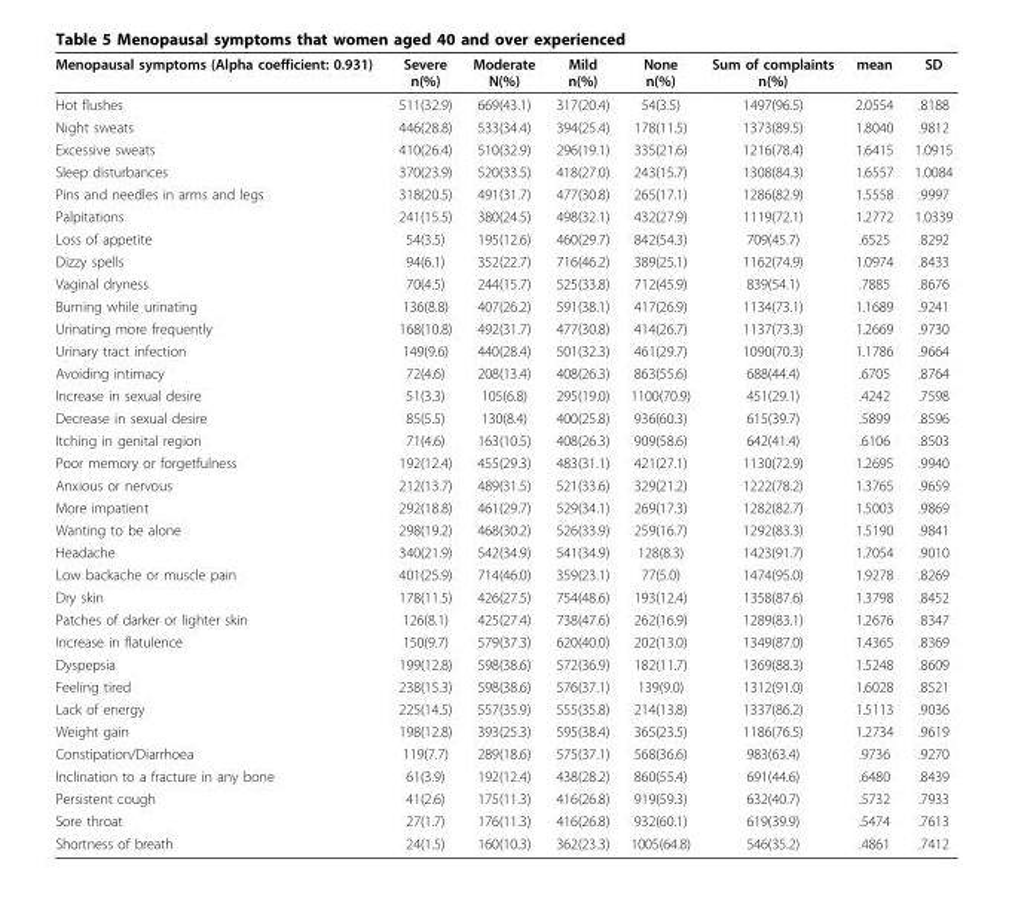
<table><thead><tr><td>Menopausal symptoms (Alpha coefficient: 0.931)</td><td>Severe n(%)</td><td>Moderate N(%)</td><td>Mild n(%)</td><td>None n(%)</td><td>Sum of complaints n(%)</td><td>mean</td><td>SD</td></tr></thead><tbody><tr><td>Hot flushes</td><td>511(32.9)</td><td>669(43.1)</td><td>317(20.4)</td><td>54(3.5)</td><td>1497(96.5)</td><td>2.0554</td><td>.8188</td></tr><tr><td>Night sweats</td><td>446(28.8)</td><td>533(34.4)</td><td>394(25.4)</td><td>178(11.5)</td><td>1373(89.5)</td><td>1.8040</td><td>.9812</td></tr><tr><td>Excessive sweats</td><td>410(26.4)</td><td>510(32.9)</td><td>296(19.1)</td><td>335(21.6)</td><td>1216(78.4)</td><td>1.6415</td><td>1.0915</td></tr><tr><td>Sleep disturbances</td><td>370(23.9)</td><td>520(33.5)</td><td>418(27.0)</td><td>243(15.7)</td><td>1308(84.3)</td><td>1.6557</td><td>1.0084</td></tr><tr><td>Pins and needles in arms and legs</td><td>318(20.5)</td><td>491(31.7)</td><td>477(30.8)</td><td>265(17.1)</td><td>1286(82.9)</td><td>1.5558</td><td>.9997</td></tr><tr><td>Palpitations</td><td>241(15.5)</td><td>380(24.5)</td><td>498(32.1)</td><td>432(27.9)</td><td>1119(72.1)</td><td>1.2772</td><td>1.0339</td></tr><tr><td>Loss of appetite</td><td>54(3.5)</td><td>195(12.6)</td><td>460(29.7)</td><td>842(54.3)</td><td>709(45.7)</td><td>.6525</td><td>.8292</td></tr><tr><td>Dizzy spells</td><td>94(6.1)</td><td>352(22.7)</td><td>716(46.2)</td><td>389(25.1)</td><td>1162(74.9)</td><td>1.0974</td><td>.8433</td></tr><tr><td>Vaginal dryness</td><td>70(4.5)</td><td>244(15.7)</td><td>525(33.8)</td><td>712(45.9)</td><td>839(54.1)</td><td>.7885</td><td>.8676</td></tr><tr><td>Burning while urinating</td><td>136(8.8)</td><td>407(26.2)</td><td>591(38.1)</td><td>417(26.9)</td><td>1134(73.1)</td><td>1.1689</td><td>.9241</td></tr><tr><td>Urinating more frequently</td><td>168(10.8)</td><td>492(31.7)</td><td>477(30.8)</td><td>414(26.7)</td><td>1137(73.3)</td><td>1.2669</td><td>.9730</td></tr><tr><td>Urinary tract infection</td><td>149(9.6)</td><td>440(28.4)</td><td>501(32.3)</td><td>461(29.7)</td><td>1090(70.3)</td><td>1.1786</td><td>.9664</td></tr><tr><td>Avoiding intimacy</td><td>72(4.6)</td><td>208(13.4)</td><td>408(26.3)</td><td>863(55.6)</td><td>688(44.4)</td><td>.6705</td><td>.8764</td></tr><tr><td>Increase in sexual desire</td><td>51(3.3)</td><td>105(6.8)</td><td>295(19.0)</td><td>1100(70.9)</td><td>451(29.1)</td><td>.4242</td><td>.7598</td></tr><tr><td>Decrease in sexual desire</td><td>85(5.5)</td><td>130(8.4)</td><td>400(25.8)</td><td>936(60.3)</td><td>615(39.7)</td><td>.5899</td><td>.8596</td></tr><tr><td>Itching in genital region</td><td>71(4.6)</td><td>163(10.5)</td><td>408(26.3)</td><td>909(58.6)</td><td>642(41.4)</td><td>.6106</td><td>.8503</td></tr><tr><td>Poor memory or forgetfulness</td><td>192(12.4)</td><td>455(29.3)</td><td>483(31.1)</td><td>421(27.1)</td><td>1130(72.9)</td><td>1.2695</td><td>.9940</td></tr><tr><td>Anxious or nervous</td><td>212(13.7)</td><td>489(31.5)</td><td>521(33.6)</td><td>329(21.2)</td><td>1222(78.2)</td><td>1.3765</td><td>.9659</td></tr><tr><td>More impatient</td><td>292(18.8)</td><td>461(29.7)</td><td>529(34.1)</td><td>269(17.3)</td><td>1282(82.7)</td><td>1.5003</td><td>.9869</td></tr><tr><td>Wanting to be alone</td><td>298(19.2)</td><td>468(30.2)</td><td>526(33.9)</td><td>259(16.7)</td><td>1292(83.3)</td><td>1.5190</td><td>.9841</td></tr><tr><td>Headache</td><td>340(21.9)</td><td>542(34.9)</td><td>541(34.9)</td><td>128(8.3)</td><td>1423(91.7)</td><td>1.7054</td><td>.9010</td></tr><tr><td>Low backache or muscle pain</td><td>401(25.9)</td><td>714(46.0)</td><td>359(23.1)</td><td>77(5.0)</td><td>1474(95.0)</td><td>1.9278</td><td>.8269</td></tr><tr><td>Dry skin</td><td>178(11.5)</td><td>426(27.5)</td><td>754(48.6)</td><td>193(12.4)</td><td>1358(87.6)</td><td>1.3798</td><td>.8452</td></tr><tr><td>Patches of darker or lighter skin</td><td>126(8.1)</td><td>425(27.4)</td><td>738(47.6)</td><td>262(16.9)</td><td>1289(83.1)</td><td>1.2676</td><td>.8347</td></tr><tr><td>Increase in flatulence</td><td>150(9.7)</td><td>579(37.3)</td><td>620(40.0)</td><td>202(13.0)</td><td>1349(87.0)</td><td>1.4365</td><td>.8369</td></tr><tr><td>Dyspepsia</td><td>199(12.8)</td><td>598(38.6)</td><td>572(36.9)</td><td>182(11.7)</td><td>1369(88.3)</td><td>1.5248</td><td>.8609</td></tr><tr><td>Feeling tired</td><td>238(15.3)</td><td>598(38.6)</td><td>576(37.1)</td><td>139(9.0)</td><td>1312(91.0)</td><td>1.6028</td><td>.8521</td></tr><tr><td>Lack of energy</td><td>225(14.5)</td><td>557(35.9)</td><td>555(35.8)</td><td>214(13.8)</td><td>1337(86.2)</td><td>1.5113</td><td>.9036</td></tr><tr><td>Weight gain</td><td>198(12.8)</td><td>393(25.3)</td><td>595(38.4)</td><td>365(23.5)</td><td>1186(76.5)</td><td>1.2734</td><td>.9619</td></tr><tr><td>Constipation/Diarrhoea</td><td>119(7.7)</td><td>289(18.6)</td><td>575(37.1)</td><td>568(36.6)</td><td>983(63.4)</td><td>.9736</td><td>.9270</td></tr><tr><td>Inclination to a fracture in any bone</td><td>61(3.9)</td><td>192(12.4)</td><td>438(28.2)</td><td>860(55.4)</td><td>691(44.6)</td><td>.6480</td><td>.8439</td></tr><tr><td>Persistent cough</td><td>41(2.6)</td><td>175(11.3)</td><td>416(26.8)</td><td>919(59.3)</td><td>632(40.7)</td><td>.5732</td><td>.7933</td></tr><tr><td>Sore throat</td><td>27(1.7)</td><td>176(11.3)</td><td>416(26.8)</td><td>932(60.1)</td><td>619(39.9)</td><td>.5474</td><td>.7613</td></tr><tr><td>Shortness of breath</td><td>24(1.5)</td><td>160(10.3)</td><td>362(23.3)</td><td>1005(64.8)</td><td>546(35.2)</td><td>.4861</td><td>.7412</td></tr></tbody></table>